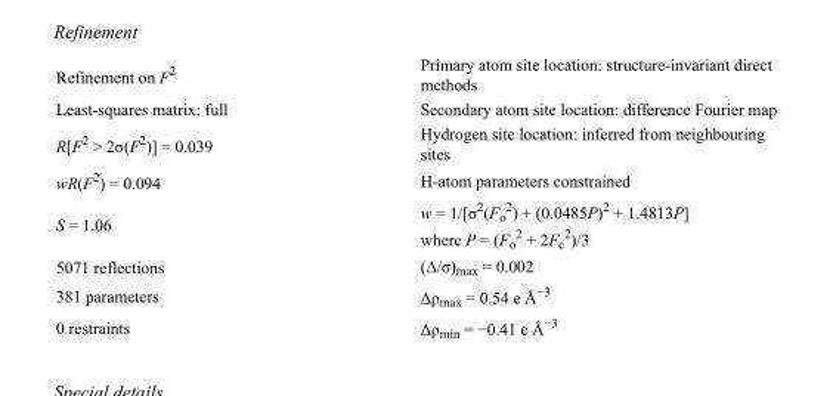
<table><tbody><tr><td>Refinement on F<sup>2</sup></td><td>Primary atom site location: structure-invariant direct methods</td></tr><tr><td>Least-squares matrix: full</td><td>Secondary atom site location: difference Fourier map</td></tr><tr><td>R[F<sup>2</sup> &gt; 2σ(F<sup>2</sup>)] = 0.039</td><td>Hydrogen site location: inferred from neighbouring sites</td></tr><tr><td>wR(F<sup>2</sup>) = 0.094</td><td>H-atom parameters constrained</td></tr><tr><td>S = 1.06</td><td>w = 1/[σ<sup>2</sup>(F<sub>o</sub> <sup>2</sup>) + (0.0485P)<sup>2</sup> + 1.4813P] where P = (F<sub>o</sub> <sup>2</sup> + 2F<sub>c</sub> <sup>2</sup>)/3</td></tr><tr><td>5071 reflections</td><td>(Δ/σ)<sub>max</sub> = 0.002</td></tr><tr><td>381 parameters</td><td>Δρ<sub>max</sub> = 0.54 e Å<sup>−3</sup></td></tr><tr><td>0 restraints</td><td>Δρ<sub>min</sub> = −0.41 e Å<sup>−3</sup></td></tr></tbody></table>